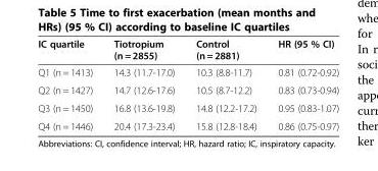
<table><thead><tr><td>IC quartile</td><td>Tiotropium (n = 2855)</td><td>Control (n = 2881)</td><td>HR (95 % CI)</td></tr></thead><tbody><tr><td>Q1 (n = 1413)</td><td>14.3 (11.7-17.0)</td><td>10.3 (8.8-11.7)</td><td>0.81 (0.72-0.92)</td></tr><tr><td>Q2 (n = 1427)</td><td>14.7 (12.6-17.6)</td><td>10.5 (8.7-12.2)</td><td>0.83 (0.73-0.94)</td></tr><tr><td>Q3 (n = 1450)</td><td>16.8 (13.6-19.8)</td><td>14.8 (12.2-17.2)</td><td>0.95 (0.83-1.07)</td></tr><tr><td>Q4 (n = 1446)</td><td>20.4 (17.3-23.4)</td><td>15.8 (12.8-18.4)</td><td>0.86 (0.75-0.97)</td></tr></tbody></table>